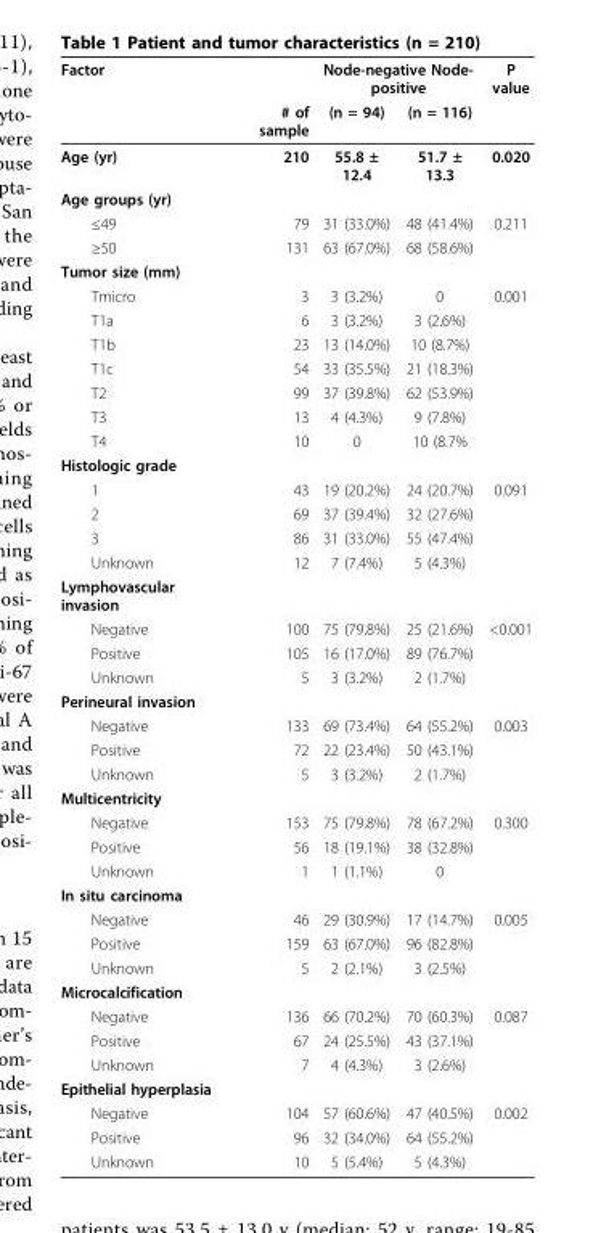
<table><thead><tr><td rowspan="2">Factor</td><td rowspan="2"># of sample</td><td colspan="2">Node-negative Node- positive</td><td rowspan="2">P value</td></tr><tr><td>(n = 94)</td><td>(n = 116)</td></tr></thead><tbody><tr><td>Age (yr)</td><td>210</td><td>55.8 ± 12.4</td><td>51.7 ± 13.3</td><td>0.020</td></tr><tr><td colspan="5">Age groups (yr)</td></tr><tr><td>≤49</td><td>79</td><td>31 (33.0%)</td><td>48 (41.4%)</td><td>0.211</td></tr><tr><td>≥50</td><td>131</td><td>63 (67.0%)</td><td>68 (58.6%)</td><td></td></tr><tr><td colspan="5">Tumor size (mm)</td></tr><tr><td>Tmicro</td><td>3</td><td>3 (3.2%)</td><td>0</td><td>0.001</td></tr><tr><td>T1a</td><td>6</td><td>3 (3.2%)</td><td>3 (2.6%)</td><td></td></tr><tr><td>T1b</td><td>23</td><td>13 (14.0%)</td><td>10 (8.7%)</td><td></td></tr><tr><td>T1c</td><td>54</td><td>33 (35.5%)</td><td>21 (18.3%)</td><td></td></tr><tr><td>T2</td><td>99</td><td>37 (39.8%)</td><td>62 (53.9%)</td><td></td></tr><tr><td>T3</td><td>13</td><td>4 (4.3%)</td><td>9 (7.8%)</td><td></td></tr><tr><td>T4</td><td>10</td><td>0</td><td>10 (8.7%</td><td></td></tr><tr><td colspan="5">Histologic grade</td></tr><tr><td>1</td><td>43</td><td>19 (20.2%)</td><td>24 (20.7%)</td><td>0.091</td></tr><tr><td>2</td><td>69</td><td>37 (39.4%)</td><td>32 (27.6%)</td><td></td></tr><tr><td>3</td><td>86</td><td>31 (33.0%)</td><td>55 (47.4%)</td><td></td></tr><tr><td>Unknown</td><td>12</td><td>7 (7.4%)</td><td>5 (4.3%)</td><td></td></tr><tr><td colspan="5">Lymphovascular invasion</td></tr><tr><td>Negative</td><td>100</td><td>75 (79.8%)</td><td>25 (21.6%)</td><td>&lt;0.001</td></tr><tr><td>Positive</td><td>105</td><td>16 (17.0%)</td><td>89 (76.7%)</td><td></td></tr><tr><td>Unknown</td><td>5</td><td>3 (3.2%)</td><td>2 (1.7%)</td><td></td></tr><tr><td colspan="5">Perineural invasion</td></tr><tr><td>Negative</td><td>133</td><td>69 (73.4%)</td><td>64 (55.2%)</td><td>0.003</td></tr><tr><td>Positive</td><td>72</td><td>22 (23.4%)</td><td>50 (43.1%)</td><td></td></tr><tr><td>Unknown</td><td>5</td><td>3 (3.2%)</td><td>2 (1.7%)</td><td></td></tr><tr><td colspan="5">Multicentricity</td></tr><tr><td>Negative</td><td>153</td><td>75 (79.8%)</td><td>78 (67.2%)</td><td>0.300</td></tr><tr><td>Positive</td><td>56</td><td>18 (19.1%)</td><td>38 (32.8%)</td><td></td></tr><tr><td>Unknown</td><td>1</td><td>1 (1.1%)</td><td>0</td><td></td></tr><tr><td colspan="5">In situ carcinoma</td></tr><tr><td>Negative</td><td>46</td><td>29 (30.9%)</td><td>17 (14.7%)</td><td>0.005</td></tr><tr><td>Positive</td><td>159</td><td>63 (67.0%)</td><td>96 (82.8%)</td><td></td></tr><tr><td>Unknown</td><td>5</td><td>2 (2.1%)</td><td>3 (2.5%)</td><td></td></tr><tr><td colspan="5">Microcalcification</td></tr><tr><td>Negative</td><td>136</td><td>66 (70.2%)</td><td>70 (60.3%)</td><td>0.087</td></tr><tr><td>Positive</td><td>67</td><td>24 (25.5%)</td><td>43 (37.1%)</td><td></td></tr><tr><td>Unknown</td><td>7</td><td>4 (4.3%)</td><td>3 (2.6%)</td><td></td></tr><tr><td colspan="5">Epithelial hyperplasia</td></tr><tr><td>Negative</td><td>104</td><td>57 (60.6%)</td><td>47 (40.5%)</td><td>0.002</td></tr><tr><td>Positive</td><td>96</td><td>32 (34.0%)</td><td>64 (55.2%)</td><td></td></tr><tr><td>Unknown</td><td>10</td><td>5 (5.4%)</td><td>5 (4.3%)</td><td></td></tr></tbody></table>